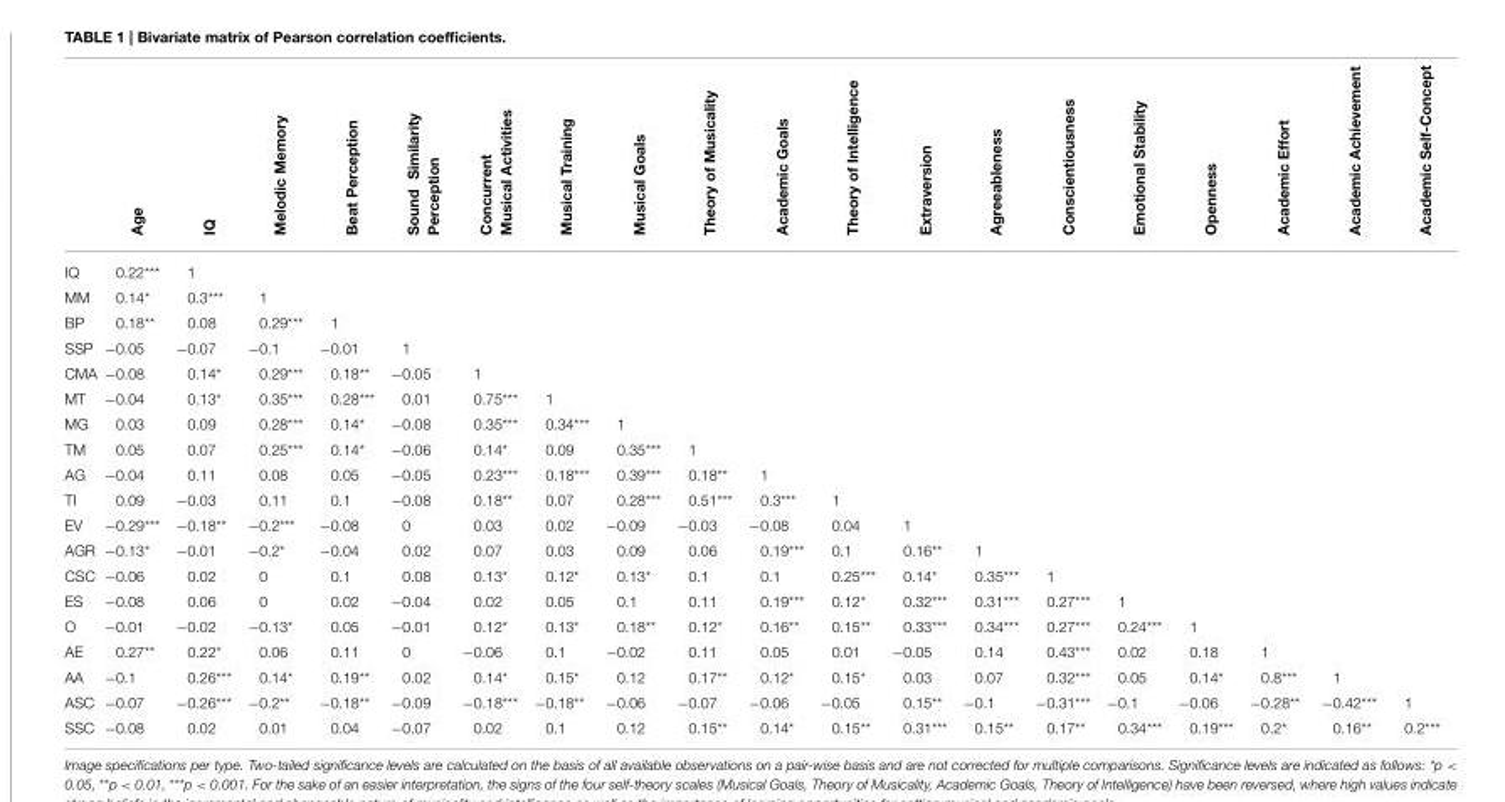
<table><thead><tr><td></td><td>Age</td><td>IQ</td><td>Melodic Memory</td><td>Beat Perception</td><td>Sound Similarity Perception</td><td>Concurrent Musical Activities</td><td>Musical Training</td><td>Musical Goals</td><td>Theory of Musicality</td><td>Academic Goals</td><td>Theory of Intelligence</td><td>Extraversion</td><td>Agreeableness</td><td>Conscientiousness</td><td>Emotional Stability</td><td>Openness</td><td>Academic Effort</td><td>Academic Achievement</td><td>Academic Self-Concept</td></tr></thead><tbody><tr><td>IQ</td><td>0.22***</td><td>1</td><td></td><td></td><td></td><td></td><td></td><td></td><td></td><td></td><td></td><td></td><td></td><td></td><td></td><td></td><td></td><td></td><td></td></tr><tr><td>MM</td><td>0.14*</td><td>0.3***</td><td>1</td><td></td><td></td><td></td><td></td><td></td><td></td><td></td><td></td><td></td><td></td><td></td><td></td><td></td><td></td><td></td><td></td></tr><tr><td>BP</td><td>0.18**</td><td>0.08</td><td>0.29***</td><td>1</td><td></td><td></td><td></td><td></td><td></td><td></td><td></td><td></td><td></td><td></td><td></td><td></td><td></td><td></td><td></td></tr><tr><td>SSP</td><td>−0.05</td><td>−0.07</td><td>−0.1</td><td>−0.01</td><td>1</td><td></td><td></td><td></td><td></td><td></td><td></td><td></td><td></td><td></td><td></td><td></td><td></td><td></td><td></td></tr><tr><td>CMA</td><td>−0.08</td><td>0.14*</td><td>0.29***</td><td>0.18**</td><td>−0.05</td><td>1</td><td></td><td></td><td></td><td></td><td></td><td></td><td></td><td></td><td></td><td></td><td></td><td></td><td></td></tr><tr><td>MT</td><td>−0.04</td><td>0.13*</td><td>0.35***</td><td>0.28***</td><td>0.01</td><td>0.75***</td><td>1</td><td></td><td></td><td></td><td></td><td></td><td></td><td></td><td></td><td></td><td></td><td></td><td></td></tr><tr><td>MG</td><td>0.03</td><td>0.09</td><td>0.28***</td><td>0.14*</td><td>−0.08</td><td>0.35***</td><td>0.34***</td><td>1</td><td></td><td></td><td></td><td></td><td></td><td></td><td></td><td></td><td></td><td></td><td></td></tr><tr><td>TM</td><td>0.05</td><td>0.07</td><td>0.25***</td><td>0.14*</td><td>−0.06</td><td>0.14*</td><td>0.09</td><td>0.35***</td><td>1</td><td></td><td></td><td></td><td></td><td></td><td></td><td></td><td></td><td></td><td></td></tr><tr><td>AG</td><td>−0.04</td><td>0.11</td><td>0.08</td><td>0.05</td><td>−0.05</td><td>0.23***</td><td>0.18***</td><td>0.39***</td><td>0.18**</td><td>1</td><td></td><td></td><td></td><td></td><td></td><td></td><td></td><td></td><td></td></tr><tr><td>TI</td><td>0.09</td><td>−0.03</td><td>0.11</td><td>0.1</td><td>−0.08</td><td>0.18**</td><td>0.07</td><td>0.28***</td><td>0.51***</td><td>0.3***</td><td>1</td><td></td><td></td><td></td><td></td><td></td><td></td><td></td><td></td></tr><tr><td>EV</td><td>−0.29***</td><td>−0.18**</td><td>−0.2***</td><td>−0.08</td><td>0</td><td>0.03</td><td>0.02</td><td>−0.09</td><td>−0.03</td><td>−0.08</td><td>0.04</td><td>1</td><td></td><td></td><td></td><td></td><td></td><td></td><td></td></tr><tr><td>AGR</td><td>−0.13*</td><td>−0.01</td><td>−0.2*</td><td>−0.04</td><td>0.02</td><td>0.07</td><td>0.03</td><td>0.09</td><td>0.06</td><td>0.19***</td><td>0.1</td><td>0.16**</td><td>1</td><td></td><td></td><td></td><td></td><td></td><td></td></tr><tr><td>CSC</td><td>−0.06</td><td>0.02</td><td>0</td><td>0.1</td><td>0.08</td><td>0.13*</td><td>0.12*</td><td>0.13*</td><td>0.1</td><td>0.1</td><td>0.25***</td><td>0.14*</td><td>0.35***</td><td>1</td><td></td><td></td><td></td><td></td><td></td></tr><tr><td>ES</td><td>−0.08</td><td>0.06</td><td>0</td><td>0.02</td><td>−0.04</td><td>0.02</td><td>0.05</td><td>0.1</td><td>0.11</td><td>0.19***</td><td>0.12*</td><td>0.32***</td><td>0.31***</td><td>0.27***</td><td>1</td><td></td><td></td><td></td><td></td></tr><tr><td>O</td><td>−0.01</td><td>−0.02</td><td>−0.13*</td><td>0.05</td><td>−0.01</td><td>0.12*</td><td>0.13*</td><td>0.18**</td><td>0.12*</td><td>0.16**</td><td>0.15**</td><td>0.33***</td><td>0.34***</td><td>0.27***</td><td>0.24***</td><td>1</td><td></td><td></td><td></td></tr><tr><td>AE</td><td>0.27**</td><td>0.22*</td><td>0.06</td><td>0.11</td><td>0</td><td>−0.06</td><td>0.1</td><td>−0.02</td><td>0.11</td><td>0.05</td><td>0.01</td><td>−0.05</td><td>0.14</td><td>0.43***</td><td>0.02</td><td>0.18</td><td>1</td><td></td><td></td></tr><tr><td>AA</td><td>−0.1</td><td>0.26***</td><td>0.14*</td><td>0.19**</td><td>0.02</td><td>0.14*</td><td>0.15*</td><td>0.12</td><td>0.17**</td><td>0.12*</td><td>0.15*</td><td>0.03</td><td>0.07</td><td>0.32***</td><td>0.05</td><td>0.14*</td><td>0.8***</td><td>1</td><td></td></tr><tr><td>ASC</td><td>−0.07</td><td>−0.26***</td><td>−0.2**</td><td>−0.18**</td><td>−0.09</td><td>−0.18***</td><td>−0.18**</td><td>−0.06</td><td>−0.07</td><td>−0.06</td><td>−0.05</td><td>0.15**</td><td>−0.1</td><td>−0.31***</td><td>−0.1</td><td>−0.06</td><td>−0.28**</td><td>−0.42***</td><td>1</td></tr><tr><td>SSC</td><td>−0.08</td><td>0.02</td><td>0.01</td><td>0.04</td><td>−0.07</td><td>0.02</td><td>0.1</td><td>0.12</td><td>0.15**</td><td>0.14*</td><td>0.15**</td><td>0.31***</td><td>0.15**</td><td>0.17**</td><td>0.34***</td><td>0.19***</td><td>0.2*</td><td>0.16**</td><td>0.2***</td></tr></tbody></table>